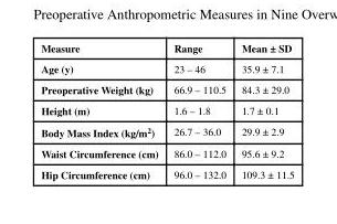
<table><thead><tr><td>Measure</td><td>Range</td><td>Mean ± SD</td></tr></thead><tbody><tr><td>Age (y)</td><td>23 – 46</td><td>35.9 ± 7.1</td></tr><tr><td>Preoperative Weight (kg)</td><td>66.9 – 110.5</td><td>84.3 ± 29.0</td></tr><tr><td>Height (m)</td><td>1.6 – 1.8</td><td>1.7 ± 0.1</td></tr><tr><td>Body Mass Index (kg/m<sup>2</sup>)</td><td>26.7 – 36.0</td><td>29.9 ± 2.9</td></tr><tr><td>Waist Circumference (cm)</td><td>86.0 – 112.0</td><td>95.6 ± 9.2</td></tr><tr><td>Hip Circumference (cm)</td><td>96.0 – 132.0</td><td>109.3 ± 11.5</td></tr></tbody></table>